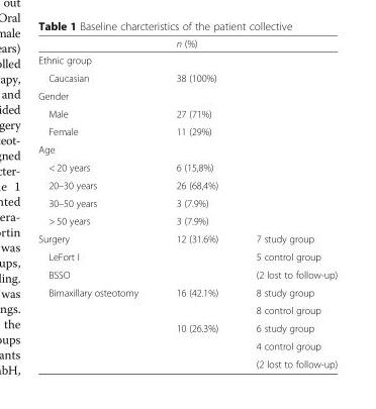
<table><thead><tr><td></td><td colspan="2">n (%)</td></tr></thead><tbody><tr><td colspan="3">Ethnic group</td></tr><tr><td>Caucasian</td><td colspan="2">38 (100%)</td></tr><tr><td colspan="3">Gender</td></tr><tr><td>Male</td><td colspan="2">27 (71%)</td></tr><tr><td>Female</td><td colspan="2">11 (29%)</td></tr><tr><td colspan="3">Age</td></tr><tr><td>&lt; 20 years</td><td colspan="2">6 (15,8%)</td></tr><tr><td>20–30 years</td><td colspan="2">26 (68,4%)</td></tr><tr><td>30–50 years</td><td colspan="2">3 (7.9%)</td></tr><tr><td>&gt; 50 years</td><td colspan="2">3 (7.9%)</td></tr><tr><td>Surgery</td><td rowspan="3">12 (31.6%)</td><td>7 study group</td></tr><tr><td>LeFort I</td><td>5 control group</td></tr><tr><td>BSSO</td><td>(2 lost to follow-up)</td></tr><tr><td rowspan="5">Bimaxillary osteotomy</td><td rowspan="2">16 (42.1%)</td><td>8 study group</td></tr><tr><td>8 control group</td></tr><tr><td rowspan="3">10 (26.3%)</td><td>6 study group</td></tr><tr><td>4 control group</td></tr><tr><td>(2 lost to follow-up)</td></tr></tbody></table>